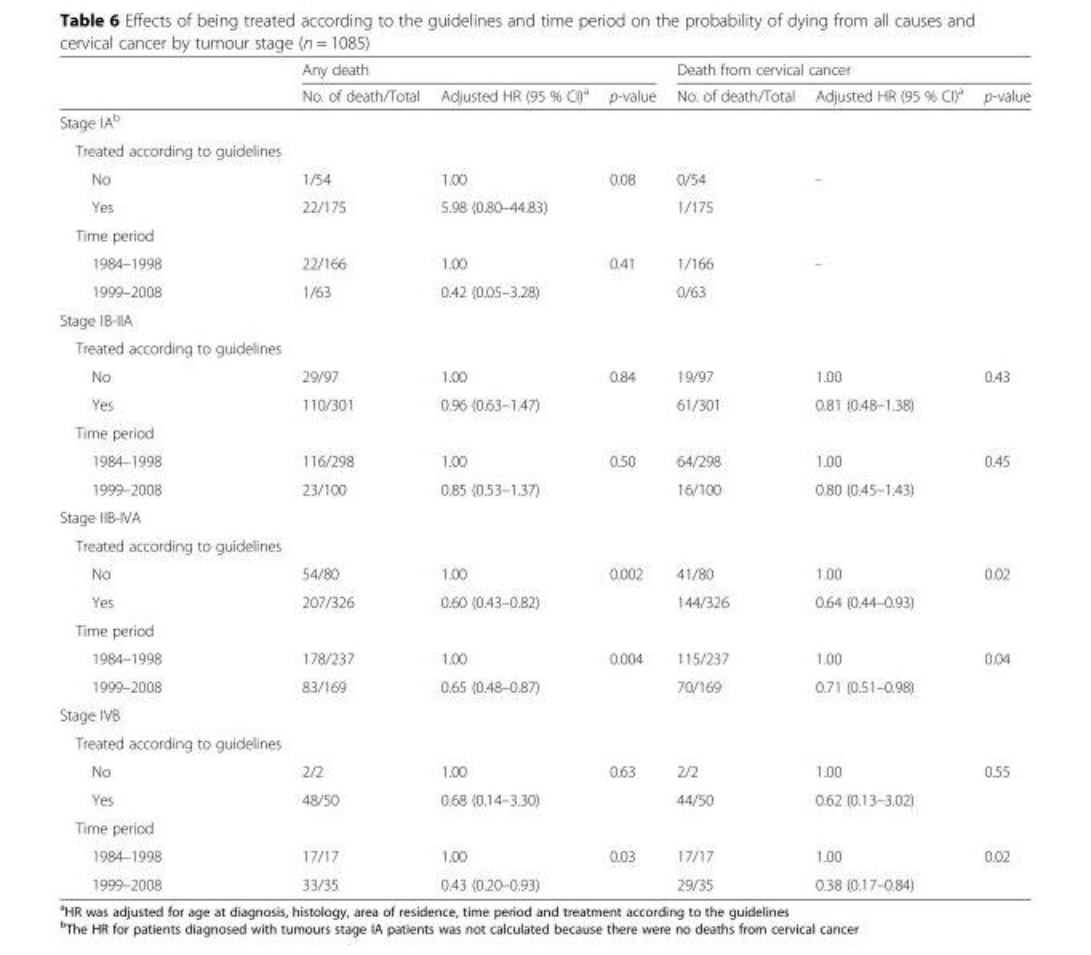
<table><thead><tr><td rowspan="2"></td><td colspan="3">Any death</td><td colspan="3">Death from cervical cancer</td></tr><tr><td>No. of death/Total</td><td>Adjusted HR (95 % CI)<sup>a</sup></td><td>p-value</td><td>No. of death/Total</td><td>Adjusted HR (95 % CI)<sup>a</sup></td><td>p-value</td></tr></thead><tbody><tr><td colspan="7">Stage IA<sup>b</sup></td></tr><tr><td colspan="7">Treated according to guidelines</td></tr><tr><td>No</td><td>1/54</td><td>1.00</td><td>0.08</td><td>0/54</td><td>-</td><td></td></tr><tr><td>Yes</td><td>22/175</td><td>5.98 (0.80–44.83)</td><td></td><td>1/175</td><td></td><td></td></tr><tr><td colspan="7">Time period</td></tr><tr><td>1984–1998</td><td>22/166</td><td>1.00</td><td>0.41</td><td>1/166</td><td>-</td><td></td></tr><tr><td>1999–2008</td><td>1/63</td><td>0.42 (0.05–3.28)</td><td></td><td>0/63</td><td></td><td></td></tr><tr><td colspan="7">Stage IB-IIA</td></tr><tr><td colspan="7">Treated according to guidelines</td></tr><tr><td>No</td><td>29/97</td><td>1.00</td><td>0.84</td><td>19/97</td><td>1.00</td><td>0.43</td></tr><tr><td>Yes</td><td>110/301</td><td>0.96 (0.63–1.47)</td><td></td><td>61/301</td><td>0.81 (0.48–1.38)</td><td></td></tr><tr><td colspan="7">Time period</td></tr><tr><td>1984–1998</td><td>116/298</td><td>1.00</td><td>0.50</td><td>64/298</td><td>1.00</td><td>0.45</td></tr><tr><td>1999–2008</td><td>23/100</td><td>0.85 (0.53–1.37)</td><td></td><td>16/100</td><td>0.80 (0.45–1.43)</td><td></td></tr><tr><td colspan="7">Stage IIB-IVA</td></tr><tr><td colspan="7">Treated according to guidelines</td></tr><tr><td>No</td><td>54/80</td><td>1.00</td><td>0.002</td><td>41/80</td><td>1.00</td><td>0.02</td></tr><tr><td>Yes</td><td>207/326</td><td>0.60 (0.43–0.82)</td><td></td><td>144/326</td><td>0.64 (0.44–0.93)</td><td></td></tr><tr><td colspan="7">Time period</td></tr><tr><td>1984–1998</td><td>178/237</td><td>1.00</td><td>0.004</td><td>115/237</td><td>1.00</td><td>0.04</td></tr><tr><td>1999–2008</td><td>83/169</td><td>0.65 (0.48–0.87)</td><td></td><td>70/169</td><td>0.71 (0.51–0.98)</td><td></td></tr><tr><td colspan="7">Stage IVB</td></tr><tr><td colspan="7">Treated according to guidelines</td></tr><tr><td>No</td><td>2/2</td><td>1.00</td><td>0.63</td><td>2/2</td><td>1.00</td><td>0.55</td></tr><tr><td>Yes</td><td>48/50</td><td>0.68 (0.14–3.30)</td><td></td><td>44/50</td><td>0.62 (0.13–3.02)</td><td></td></tr><tr><td colspan="7">Time period</td></tr><tr><td>1984–1998</td><td>17/17</td><td>1.00</td><td>0.03</td><td>17/17</td><td>1.00</td><td>0.02</td></tr><tr><td>1999–2008</td><td>33/35</td><td>0.43 (0.20–0.93)</td><td></td><td>29/35</td><td>0.38 (0.17–0.84)</td><td></td></tr></tbody></table>